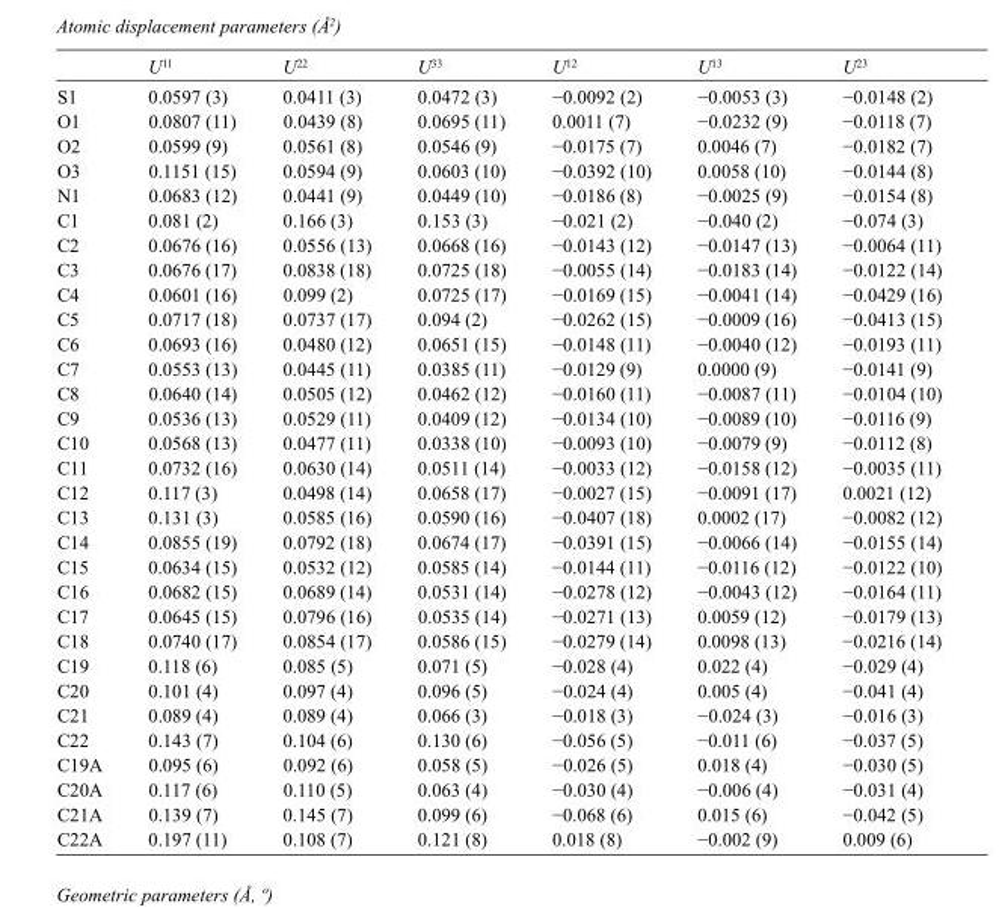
<table><thead><tr><td></td><td>U<sup>11</sup></td><td>U<sup>22</sup></td><td>U<sup>33</sup></td><td>U<sup>12</sup></td><td>U<sup>13</sup></td><td>U<sup>23</sup></td></tr></thead><tbody><tr><td>S1</td><td>0.0597 (3)</td><td>0.0411 (3)</td><td>0.0472 (3)</td><td>−0.0092 (2)</td><td>−0.0053 (3)</td><td>−0.0148 (2)</td></tr><tr><td>O1</td><td>0.0807 (11)</td><td>0.0439 (8)</td><td>0.0695 (11)</td><td>0.0011 (7)</td><td>−0.0232 (9)</td><td>−0.0118 (7)</td></tr><tr><td>O2</td><td>0.0599 (9)</td><td>0.0561 (8)</td><td>0.0546 (9)</td><td>−0.0175 (7)</td><td>0.0046 (7)</td><td>−0.0182 (7)</td></tr><tr><td>O3</td><td>0.1151 (15)</td><td>0.0594 (9)</td><td>0.0603 (10)</td><td>−0.0392 (10)</td><td>0.0058 (10)</td><td>−0.0144 (8)</td></tr><tr><td>N1</td><td>0.0683 (12)</td><td>0.0441 (9)</td><td>0.0449 (10)</td><td>−0.0186 (8)</td><td>−0.0025 (9)</td><td>−0.0154 (8)</td></tr><tr><td>C1</td><td>0.081 (2)</td><td>0.166 (3)</td><td>0.153 (3)</td><td>−0.021 (2)</td><td>−0.040 (2)</td><td>−0.074 (3)</td></tr><tr><td>C2</td><td>0.0676 (16)</td><td>0.0556 (13)</td><td>0.0668 (16)</td><td>−0.0143 (12)</td><td>−0.0147 (13)</td><td>−0.0064 (11)</td></tr><tr><td>C3</td><td>0.0676 (17)</td><td>0.0838 (18)</td><td>0.0725 (18)</td><td>−0.0055 (14)</td><td>−0.0183 (14)</td><td>−0.0122 (14)</td></tr><tr><td>C4</td><td>0.0601 (16)</td><td>0.099 (2)</td><td>0.0725 (17)</td><td>−0.0169 (15)</td><td>−0.0041 (14)</td><td>−0.0429 (16)</td></tr><tr><td>C5</td><td>0.0717 (18)</td><td>0.0737 (17)</td><td>0.094 (2)</td><td>−0.0262 (15)</td><td>−0.0009 (16)</td><td>−0.0413 (15)</td></tr><tr><td>C6</td><td>0.0693 (16)</td><td>0.0480 (12)</td><td>0.0651 (15)</td><td>−0.0148 (11)</td><td>−0.0040 (12)</td><td>−0.0193 (11)</td></tr><tr><td>C7</td><td>0.0553 (13)</td><td>0.0445 (11)</td><td>0.0385 (11)</td><td>−0.0129 (9)</td><td>0.0000 (9)</td><td>−0.0141 (9)</td></tr><tr><td>C8</td><td>0.0640 (14)</td><td>0.0505 (12)</td><td>0.0462 (12)</td><td>−0.0160 (11)</td><td>−0.0087 (11)</td><td>−0.0104 (10)</td></tr><tr><td>C9</td><td>0.0536 (13)</td><td>0.0529 (11)</td><td>0.0409 (12)</td><td>−0.0134 (10)</td><td>−0.0089 (10)</td><td>−0.0116 (9)</td></tr><tr><td>C10</td><td>0.0568 (13)</td><td>0.0477 (11)</td><td>0.0338 (10)</td><td>−0.0093 (10)</td><td>−0.0079 (9)</td><td>−0.0112 (8)</td></tr><tr><td>C11</td><td>0.0732 (16)</td><td>0.0630 (14)</td><td>0.0511 (14)</td><td>−0.0033 (12)</td><td>−0.0158 (12)</td><td>−0.0035 (11)</td></tr><tr><td>C12</td><td>0.117 (3)</td><td>0.0498 (14)</td><td>0.0658 (17)</td><td>−0.0027 (15)</td><td>−0.0091 (17)</td><td>0.0021 (12)</td></tr><tr><td>C13</td><td>0.131 (3)</td><td>0.0585 (16)</td><td>0.0590 (16)</td><td>−0.0407 (18)</td><td>0.0002 (17)</td><td>−0.0082 (12)</td></tr><tr><td>C14</td><td>0.0855 (19)</td><td>0.0792 (18)</td><td>0.0674 (17)</td><td>−0.0391 (15)</td><td>−0.0066 (14)</td><td>−0.0155 (14)</td></tr><tr><td>C15</td><td>0.0634 (15)</td><td>0.0532 (12)</td><td>0.0585 (14)</td><td>−0.0144 (11)</td><td>−0.0116 (12)</td><td>−0.0122 (10)</td></tr><tr><td>C16</td><td>0.0682 (15)</td><td>0.0689 (14)</td><td>0.0531 (14)</td><td>−0.0278 (12)</td><td>−0.0043 (12)</td><td>−0.0164 (11)</td></tr><tr><td>C17</td><td>0.0645 (15)</td><td>0.0796 (16)</td><td>0.0535 (14)</td><td>−0.0271 (13)</td><td>0.0059 (12)</td><td>−0.0179 (13)</td></tr><tr><td>C18</td><td>0.0740 (17)</td><td>0.0854 (17)</td><td>0.0586 (15)</td><td>−0.0279 (14)</td><td>0.0098 (13)</td><td>−0.0216 (14)</td></tr><tr><td>C19</td><td>0.118 (6)</td><td>0.085 (5)</td><td>0.071 (5)</td><td>−0.028 (4)</td><td>0.022 (4)</td><td>−0.029 (4)</td></tr><tr><td>C20</td><td>0.101 (4)</td><td>0.097 (4)</td><td>0.096 (5)</td><td>−0.024 (4)</td><td>0.005 (4)</td><td>−0.041 (4)</td></tr><tr><td>C21</td><td>0.089 (4)</td><td>0.089 (4)</td><td>0.066 (3)</td><td>−0.018 (3)</td><td>−0.024 (3)</td><td>−0.016 (3)</td></tr><tr><td>C22</td><td>0.143 (7)</td><td>0.104 (6)</td><td>0.130 (6)</td><td>−0.056 (5)</td><td>−0.011 (6)</td><td>−0.037 (5)</td></tr><tr><td>C19A</td><td>0.095 (6)</td><td>0.092 (6)</td><td>0.058 (5)</td><td>−0.026 (5)</td><td>0.018 (4)</td><td>−0.030 (5)</td></tr><tr><td>C20A</td><td>0.117 (6)</td><td>0.110 (5)</td><td>0.063 (4)</td><td>−0.030 (4)</td><td>−0.006 (4)</td><td>−0.031 (4)</td></tr><tr><td>C21A</td><td>0.139 (7)</td><td>0.145 (7)</td><td>0.099 (6)</td><td>−0.068 (6)</td><td>0.015 (6)</td><td>−0.042 (5)</td></tr><tr><td>C22A</td><td>0.197 (11)</td><td>0.108 (7)</td><td>0.121 (8)</td><td>0.018 (8)</td><td>−0.002 (9)</td><td>0.009 (6)</td></tr></tbody></table>